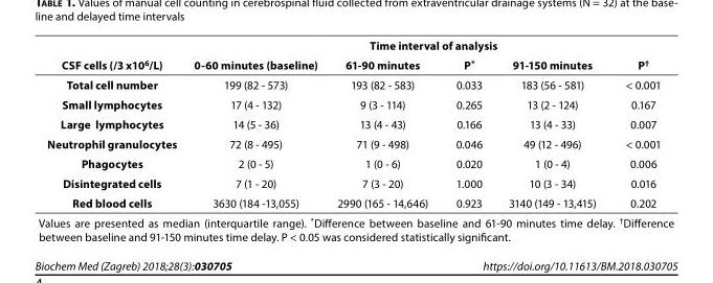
<table><thead><tr><td rowspan="2">CSF cells (/3 x10<sup>6</sup>/L)</td><td colspan="5">Time interval of analysis</td></tr><tr><td>0-60 minutes (baseline)</td><td>61-90 minutes</td><td>P*</td><td>91-150 minutes</td><td>P<sup>†</sup></td></tr></thead><tbody><tr><td>Total cell number</td><td>199 (82 - 573)</td><td>193 (82 - 583)</td><td>0.033</td><td>183 (56 - 581)</td><td>&lt; 0.001</td></tr><tr><td>Small lymphocytes</td><td>17 (4 - 132)</td><td>9 (3 - 114)</td><td>0.265</td><td>13 (2 - 124)</td><td>0.167</td></tr><tr><td>Large lymphocytes</td><td>14 (5 - 36)</td><td>13 (4 - 43)</td><td>0.166</td><td>13 (4 - 33)</td><td>0.007</td></tr><tr><td>Neutrophil granulocytes</td><td>72 (8 - 495)</td><td>71 (9 - 498)</td><td>0.046</td><td>49 (12 - 496)</td><td>&lt; 0.001</td></tr><tr><td>Phagocytes</td><td>2 (0 - 5)</td><td>1 (0 - 6)</td><td>0.020</td><td>1 (0 - 4)</td><td>0.006</td></tr><tr><td>Disintegrated cells</td><td>7 (1 - 20)</td><td>7 (3 - 20)</td><td>1.000</td><td>10 (3 - 34)</td><td>0.016</td></tr><tr><td>Red blood cells</td><td>3630 (184 -13,055)</td><td>2990 (165 - 14,646)</td><td>0.923</td><td>3140 (149 - 13,415)</td><td>0.202</td></tr><tr><td colspan="6">Values are presented as median (interquartile range). *Difference between baseline and 61-90 minutes time delay. <sup>†</sup>Difference between baseline and 91-150 minutes time delay. P &lt; 0.05 was considered statistically significant.</td></tr></tbody></table>